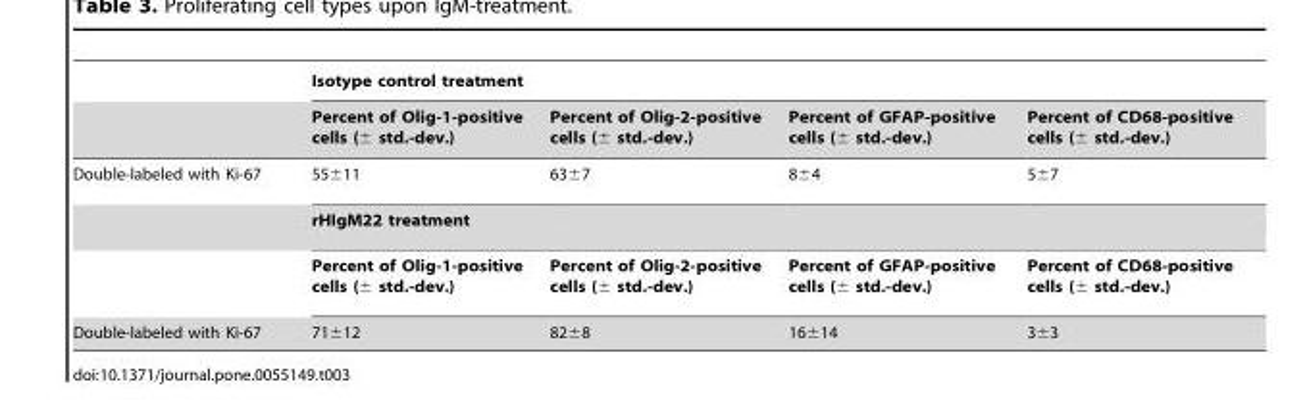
<table><thead><tr><td rowspan="2"></td><td colspan="4">Isotype control treatment</td></tr><tr><td>Percent of Olig-1-positive cells (± std.-dev.)</td><td>Percent of Olig-2-positive cells (± std.-dev.)</td><td>Percent of GFAP-positive cells (± std.-dev.)</td><td>Percent of CD68-positive cells (± std.-dev.)</td></tr></thead><tbody><tr><td rowspan="3">Double-labeled with Ki-67</td><td>55±11</td><td>63±7</td><td>8±4</td><td>5±7</td></tr><tr><td colspan="4">rHIgM22 treatment</td></tr><tr><td>Percent of Olig-1-positive cells (± std.-dev.)</td><td>Percent of Olig-2-positive cells (± std.-dev.)</td><td>Percent of GFAP-positive cells (± std.-dev.)</td><td>Percent of CD68-positive cells (± std.-dev.)</td></tr><tr><td>Double-labeled with Ki-67</td><td>71±12</td><td>82±8</td><td>16±14</td><td>3±3</td></tr></tbody></table>